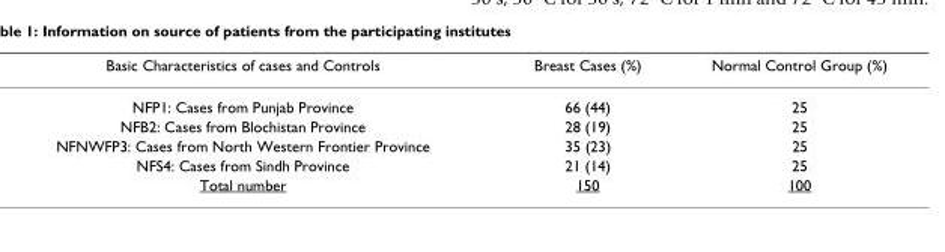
<table><thead><tr><td>Basic Characteristics of cases and Controls</td><td>Breast Cases (%)</td><td>Normal Control Group (%)</td></tr></thead><tbody><tr><td>NFP1: Cases from Punjab Province</td><td>66 (44)</td><td>25</td></tr><tr><td>NFB2: Cases from Blochistan Province</td><td>28 (19)</td><td>25</td></tr><tr><td>NFNWFP3: Cases from North Western Frontier Province</td><td>35 (23)</td><td>25</td></tr><tr><td>NFS4: Cases from Sindh Province</td><td>21 (14)</td><td>25</td></tr><tr><td>Total number</td><td>150</td><td>100</td></tr></tbody></table>